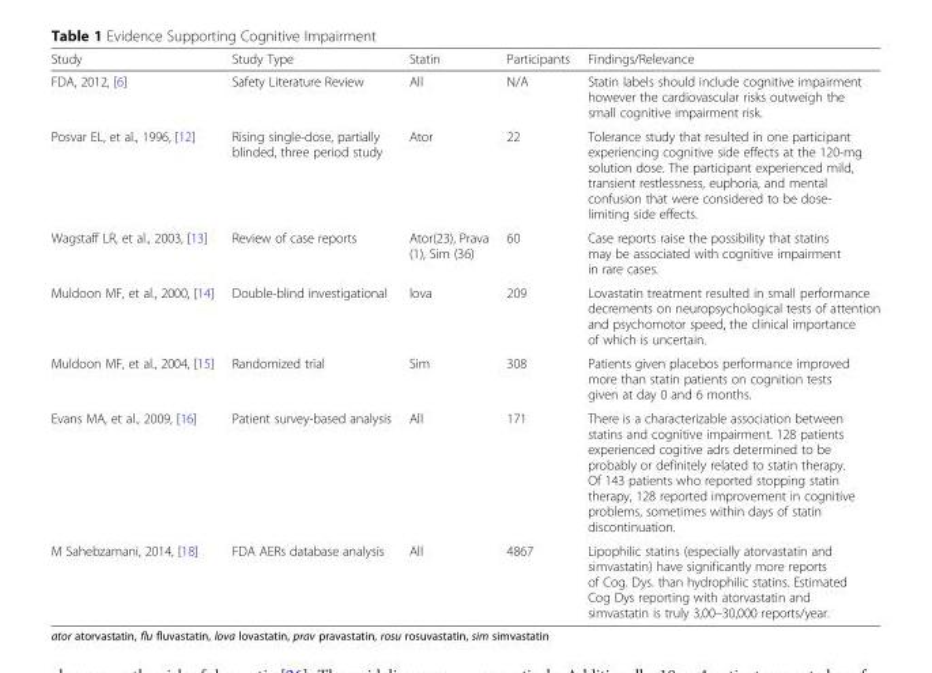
<table><thead><tr><td>Study</td><td>Study Type</td><td>Statin</td><td>Participants</td><td>Findings/Relevance</td></tr></thead><tbody><tr><td>FDA, 2012, [6]</td><td>Safety Literature Review</td><td>All</td><td>N/A</td><td>Statin labels should include cognitive impairment however the cardiovascular risks outweigh the small cognitive impairment risk.</td></tr><tr><td>Posvar EL, et al., 1996, [12]</td><td>Rising single-dose, partially blinded, three period study</td><td>Ator</td><td>22</td><td>Tolerance study that resulted in one participant experiencing cognitive side effects at the 120-mg solution dose. The participant experienced mild, transient restlessness, euphoria, and mental confusion that were considered to be dose- limiting side effects.</td></tr><tr><td>Wagstaff LR, et al., 2003, [13]</td><td>Review of case reports</td><td>Ator(23), Prava (1), Sim (36)</td><td>60</td><td>Case reports raise the possibility that statins may be associated with cognitive impairment in rare cases.</td></tr><tr><td>Muldoon MF, et al., 2000, [14]</td><td>Double-blind investigational</td><td>lova</td><td>209</td><td>Lovastatin treatment resulted in small performance decrements on neuropsychological tests of attention and psychomotor speed, the clinical importance of which is uncertain.</td></tr><tr><td>Muldoon MF, et al., 2004, [15]</td><td>Randomized trial</td><td>Sim</td><td>308</td><td>Patients given placebos performance improved more than statin patients on cognition tests given at day 0 and 6 months.</td></tr><tr><td>Evans MA, et al., 2009, [16]</td><td>Patient survey-based analysis</td><td>All</td><td>171</td><td>There is a characterizable association between statins and cognitive impairment. 128 patients experienced cogitive adrs determined to be probably or definitely related to statin therapy. Of 143 patients who reported stopping statin therapy, 128 reported improvement in cognitive problems, sometimes within days of statin discontinuation.</td></tr><tr><td>M Sahebzamani, 2014, [18]</td><td>FDA AERs database analysis</td><td>All</td><td>4867</td><td>Lipophilic statins (especially atorvastatin and simvastatin) have significantly more reports of Cog. Dys. than hydrophilic statins. Estimated Cog Dys reporting with atorvastatin and simvastatin is truly 3,00–30,000 reports/year.</td></tr></tbody></table>